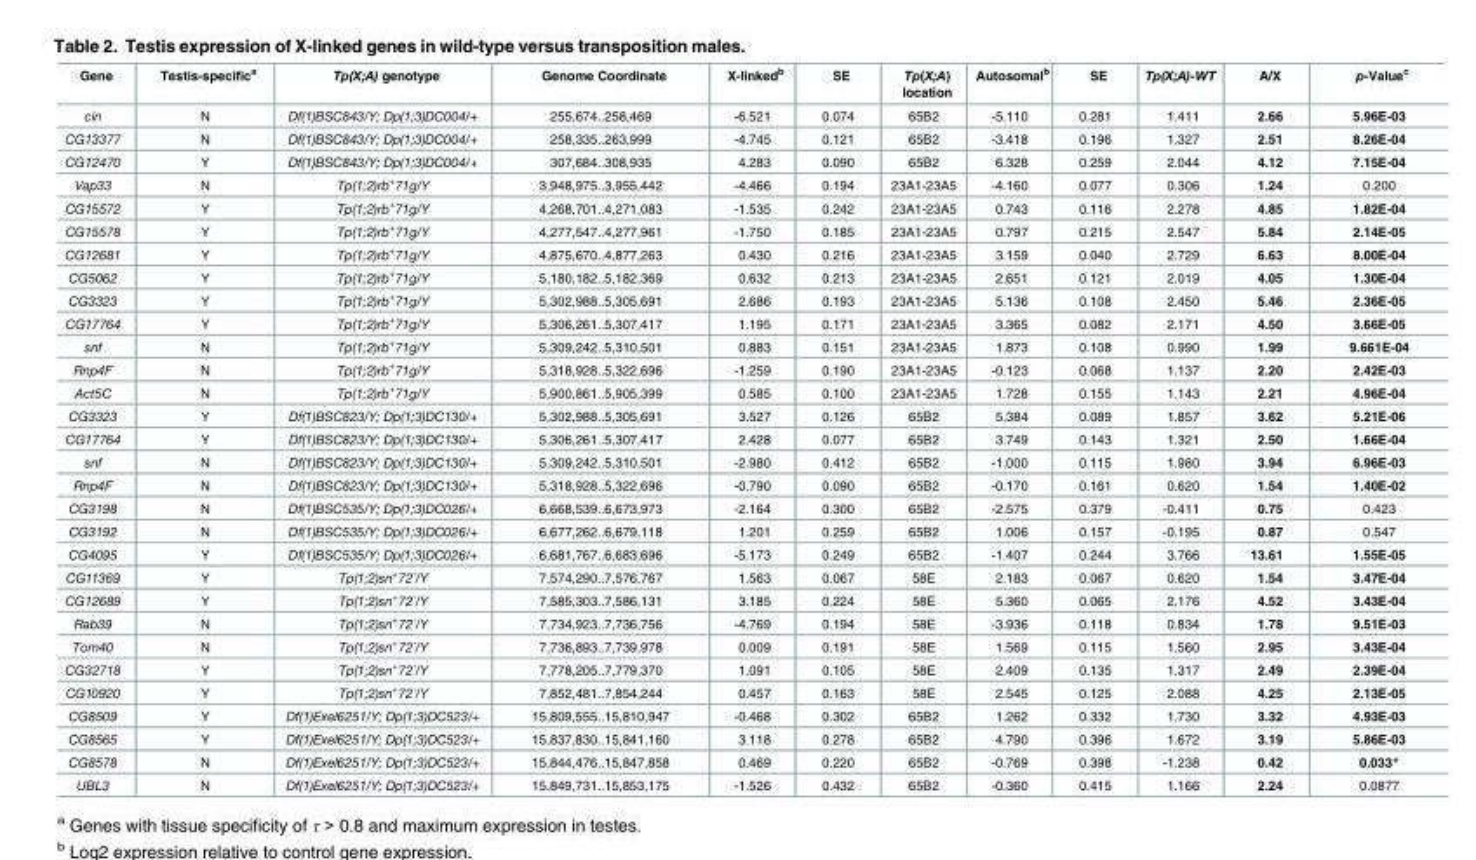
<table><thead><tr><td>Gene</td><td>Testis-specific<sup>a</sup></td><td>Tp(X;A) genotype</td><td>Genome Coordinate</td><td>X-linked<sup>b</sup></td><td>SE</td><td>Tp(X;A) location</td><td>Autosomal<sup>b</sup></td><td>SE</td><td>Tp(X;A)-WT</td><td>A/X</td><td>p-Value<sup>c</sup></td></tr></thead><tbody><tr><td>cin</td><td>N</td><td>Df(1)BSC843/Y; Dp(1;3)DC004/+</td><td>255,674..258,469</td><td>-6.521</td><td>0.074</td><td>65B2</td><td>-5.110</td><td>0.281</td><td>1.411</td><td>2.66</td><td>5.96E-03</td></tr><tr><td>CG13377</td><td>N</td><td>Df(1)BSC843/Y; Dp(1;3)DC004/+</td><td>258,335..263,999</td><td>-4.745</td><td>0.121</td><td>65B2</td><td>-3.418</td><td>0.196</td><td>1.327</td><td>2.51</td><td>8.26E-04</td></tr><tr><td>CG12470</td><td>Y</td><td>Df(1)BSC843/Y; Dp(1;3)DC004/+</td><td>307,684..308,935</td><td>4.283</td><td>0.090</td><td>65B2</td><td>6.328</td><td>0.259</td><td>2.044</td><td>4.12</td><td>7.15E-04</td></tr><tr><td>Vap33</td><td>N</td><td>Tp(1;2)rb<sup>+</sup>71g/Y</td><td>3,948,975..3,955,442</td><td>-4.466</td><td>0.194</td><td>23A1-23A5</td><td>-4.160</td><td>0.077</td><td>0.306</td><td>1.24</td><td>0.200</td></tr><tr><td>CG15572</td><td>Y</td><td>Tp(1;2)rb<sup>+</sup>71g/Y</td><td>4,268,701..4,271,083</td><td>-1.535</td><td>0.242</td><td>23A1-23A5</td><td>0.743</td><td>0.116</td><td>2.278</td><td>4.85</td><td>1.82E-04</td></tr><tr><td>CG15578</td><td>Y</td><td>Tp(1;2)rb<sup>+</sup>71g/Y</td><td>4,277,547..4,277,961</td><td>-1.750</td><td>0.185</td><td>23A1-23A5</td><td>0.797</td><td>0.215</td><td>2.547</td><td>5.84</td><td>2.14E-05</td></tr><tr><td>CG12681</td><td>Y</td><td>Tp(1;2)rb<sup>+</sup>71g/Y</td><td>4,875,670..4,877,263</td><td>0.430</td><td>0.216</td><td>23A1-23A5</td><td>3.159</td><td>0.040</td><td>2.729</td><td>6.63</td><td>8.00E-04</td></tr><tr><td>CG5062</td><td>Y</td><td>Tp(1;2)rb<sup>+</sup>71g/Y</td><td>5,180,182..5,182,369</td><td>0.632</td><td>0.213</td><td>23A1-23A5</td><td>2.651</td><td>0.121</td><td>2.019</td><td>4.05</td><td>1.30E-04</td></tr><tr><td>CG3323</td><td>Y</td><td>Tp(1;2)rb<sup>+</sup>71g/Y</td><td>5,302,988..5,305,691</td><td>2.686</td><td>0.193</td><td>23A1-23A5</td><td>5.136</td><td>0.108</td><td>2.450</td><td>5.46</td><td>2.36E-05</td></tr><tr><td>CG17764</td><td>Y</td><td>Tp(1;2)rb<sup>+</sup>71g/Y</td><td>5,306,261..5,307,417</td><td>1.195</td><td>0.171</td><td>23A1-23A5</td><td>3.365</td><td>0.082</td><td>2.171</td><td>4.50</td><td>3.66E-05</td></tr><tr><td>snf</td><td>N</td><td>Tp(1;2)rb<sup>+</sup>71g/Y</td><td>5,309,242..5,310,501</td><td>0.883</td><td>0.151</td><td>23A1-23A5</td><td>1.873</td><td>0.108</td><td>0.990</td><td>1.99</td><td>9.661E-04</td></tr><tr><td>Rnp4F</td><td>N</td><td>Tp(1;2)rb<sup>+</sup>71g/Y</td><td>5,318,928..5,322,696</td><td>-1.259</td><td>0.190</td><td>23A1-23A5</td><td>-0.123</td><td>0.068</td><td>1.137</td><td>2.20</td><td>2.42E-03</td></tr><tr><td>Act5C</td><td>N</td><td>Tp(1;2)rb<sup>+</sup>71g/Y</td><td>5,900,861..5,905,399</td><td>0.585</td><td>0.100</td><td>23A1-23A5</td><td>1.728</td><td>0.155</td><td>1.143</td><td>2.21</td><td>4.96E-04</td></tr><tr><td>CG3323</td><td>Y</td><td>Df(1)BSC823/Y; Dp(1;3)DC130/+</td><td>5,302,988..5,305,691</td><td>3.527</td><td>0.126</td><td>65B2</td><td>5.384</td><td>0.089</td><td>1.857</td><td>3.62</td><td>5.21E-06</td></tr><tr><td>CG17764</td><td>Y</td><td>Df(1)BSC823/Y; Dp(1;3)DC130/+</td><td>5,306,261..5,307,417</td><td>2.428</td><td>0.077</td><td>65B2</td><td>3.749</td><td>0.143</td><td>1.321</td><td>2.50</td><td>1.66E-04</td></tr><tr><td>snf</td><td>N</td><td>Df(1)BSC823/Y; Dp(1;3)DC130/+</td><td>5,309,242..5,310,501</td><td>-2.980</td><td>0.412</td><td>65B2</td><td>-1.000</td><td>0.115</td><td>1.980</td><td>3.94</td><td>6.96E-03</td></tr><tr><td>Rnp4F</td><td>N</td><td>Df(1)BSC823/Y; Dp(1;3)DC130/+</td><td>5,318,928..5,322,696</td><td>-0.790</td><td>0.090</td><td>65B2</td><td>-0.170</td><td>0.161</td><td>0.620</td><td>1.54</td><td>1.40E-02</td></tr><tr><td>CG3198</td><td>N</td><td>Df(1)BSC535/Y; Dp(1;3)DC026/+</td><td>6,668,539..6,673,973</td><td>-2.164</td><td>0.300</td><td>65B2</td><td>-2.575</td><td>0.379</td><td>-0.411</td><td>0.75</td><td>0.423</td></tr><tr><td>CG3192</td><td>N</td><td>Df(1)BSC535/Y; Dp(1;3)DC026/+</td><td>6,677,262..6,679,118</td><td>1.201</td><td>0.259</td><td>65B2</td><td>1.006</td><td>0.157</td><td>-0.195</td><td>0.87</td><td>0.547</td></tr><tr><td>CG4095</td><td>Y</td><td>Df(1)BSC535/Y; Dp(1;3)DC026/+</td><td>6,681,767..6,683,696</td><td>-5.173</td><td>0.249</td><td>65B2</td><td>-1.407</td><td>0.244</td><td>3.766</td><td>13.61</td><td>1.55E-05</td></tr><tr><td>CG11369</td><td>Y</td><td>Tp(1;2)sn<sup>+</sup>72`/Y</td><td>7,574,290..7,576,767</td><td>1.563</td><td>0.067</td><td>58E</td><td>2.183</td><td>0.067</td><td>0.620</td><td>1.54</td><td>3.47E-04</td></tr><tr><td>CG12689</td><td>Y</td><td>Tp(1;2)sn<sup>+</sup>72`/Y</td><td>7,585,303..7,586,131</td><td>3.185</td><td>0.224</td><td>58E</td><td>5.360</td><td>0.065</td><td>2.176</td><td>4.52</td><td>3.43E-04</td></tr><tr><td>Rab39</td><td>N</td><td>Tp(1;2)sn<sup>+</sup>72`/Y</td><td>7,734,923..7,736,756</td><td>-4.769</td><td>0.194</td><td>58E</td><td>-3.936</td><td>0.118</td><td>0.834</td><td>1.78</td><td>9.51E-03</td></tr><tr><td>Tom40</td><td>N</td><td>Tp(1;2)sn<sup>+</sup>72`/Y</td><td>7,736,893..7,739,978</td><td>0.009</td><td>0.191</td><td>58E</td><td>1.569</td><td>0.115</td><td>1.560</td><td>2.95</td><td>3.43E-04</td></tr><tr><td>CG32718</td><td>Y</td><td>Tp(1;2)sn<sup>+</sup>72`/Y</td><td>7,778,205..7,779,370</td><td>1.091</td><td>0.105</td><td>58E</td><td>2.409</td><td>0.135</td><td>1.317</td><td>2.49</td><td>2.39E-04</td></tr><tr><td>CG10920</td><td>Y</td><td>Tp(1;2)sn<sup>+</sup>72`/Y</td><td>7,852,481..7,854,244</td><td>0.457</td><td>0.163</td><td>58E</td><td>2.545</td><td>0.125</td><td>2.088</td><td>4.25</td><td>2.13E-05</td></tr><tr><td>CG8509</td><td>Y</td><td>Df(1)Exel6251/Y; Dp(1;3)DC523/+</td><td>15,809,555..15,810,947</td><td>-0.468</td><td>0.302</td><td>65B2</td><td>1.262</td><td>0.332</td><td>1.730</td><td>3.32</td><td>4.93E-03</td></tr><tr><td>CG8565</td><td>Y</td><td>Df(1)Exel6251/Y; Dp(1;3)DC523/+</td><td>15,837,830..15,841,160</td><td>3.118</td><td>0.278</td><td>65B2</td><td>4.790</td><td>0.396</td><td>1.672</td><td>3.19</td><td>5.86E-03</td></tr><tr><td>CG8578</td><td>N</td><td>Df(1)Exel6251/Y; Dp(1;3)DC523/+</td><td>15,844,476..15,847,858</td><td>0.469</td><td>0.220</td><td>65B2</td><td>-0.769</td><td>0.398</td><td>-1.238</td><td>0.42</td><td>0.033*</td></tr><tr><td>UBL3</td><td>N</td><td>Df(1)Exel6251/Y; Dp(1;3)DC523/+</td><td>15,849,731..15,853,175</td><td>-1.526</td><td>0.432</td><td>65B2</td><td>-0.360</td><td>0.415</td><td>1.166</td><td>2.24</td><td>0.0877</td></tr></tbody></table>